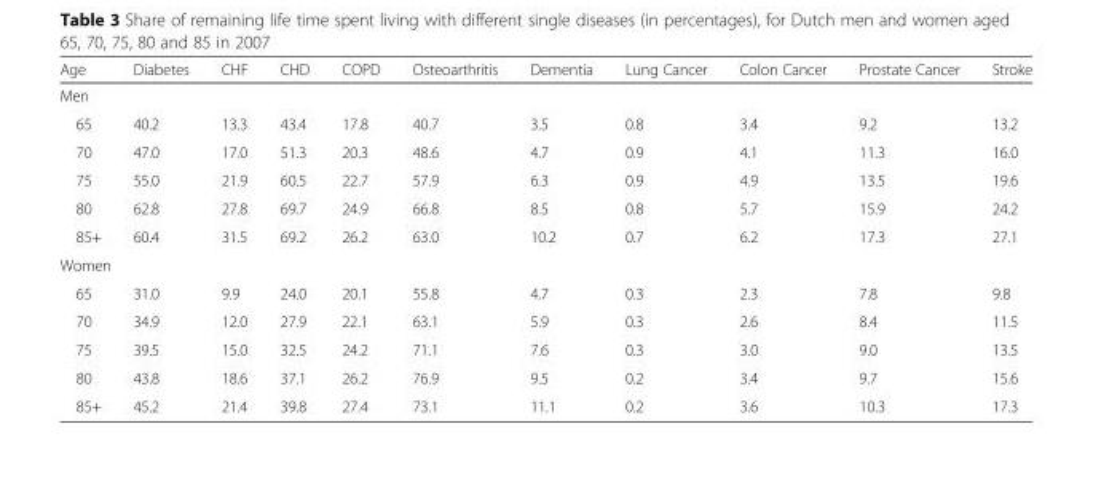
<table><thead><tr><td>Age</td><td>Diabetes</td><td>CHF</td><td>CHD</td><td>COPD</td><td>Osteoarthritis</td><td>Dementia</td><td>Lung Cancer</td><td>Colon Cancer</td><td>Prostate Cancer</td><td>Stroke</td></tr></thead><tbody><tr><td colspan="11">Men</td></tr><tr><td>65</td><td>40.2</td><td>13.3</td><td>43.4</td><td>17.8</td><td>40.7</td><td>3.5</td><td>0.8</td><td>3.4</td><td>9.2</td><td>13.2</td></tr><tr><td>70</td><td>47.0</td><td>17.0</td><td>51.3</td><td>20.3</td><td>48.6</td><td>4.7</td><td>0.9</td><td>4.1</td><td>11.3</td><td>16.0</td></tr><tr><td>75</td><td>55.0</td><td>21.9</td><td>60.5</td><td>22.7</td><td>57.9</td><td>6.3</td><td>0.9</td><td>4.9</td><td>13.5</td><td>19.6</td></tr><tr><td>80</td><td>62.8</td><td>27.8</td><td>69.7</td><td>24.9</td><td>66.8</td><td>8.5</td><td>0.8</td><td>5.7</td><td>15.9</td><td>24.2</td></tr><tr><td>85+</td><td>60.4</td><td>31.5</td><td>69.2</td><td>26.2</td><td>63.0</td><td>10.2</td><td>0.7</td><td>6.2</td><td>17.3</td><td>27.1</td></tr><tr><td colspan="11">Women</td></tr><tr><td>65</td><td>31.0</td><td>9.9</td><td>24.0</td><td>20.1</td><td>55.8</td><td>4.7</td><td>0.3</td><td>2.3</td><td>7.8</td><td>9.8</td></tr><tr><td>70</td><td>34.9</td><td>12.0</td><td>27.9</td><td>22.1</td><td>63.1</td><td>5.9</td><td>0.3</td><td>2.6</td><td>8.4</td><td>11.5</td></tr><tr><td>75</td><td>39.5</td><td>15.0</td><td>32.5</td><td>24.2</td><td>71.1</td><td>7.6</td><td>0.3</td><td>3.0</td><td>9.0</td><td>13.5</td></tr><tr><td>80</td><td>43.8</td><td>18.6</td><td>37.1</td><td>26.2</td><td>76.9</td><td>9.5</td><td>0.2</td><td>3.4</td><td>9.7</td><td>15.6</td></tr><tr><td>85+</td><td>45.2</td><td>21.4</td><td>39.8</td><td>27.4</td><td>73.1</td><td>11.1</td><td>0.2</td><td>3.6</td><td>10.3</td><td>17.3</td></tr></tbody></table>